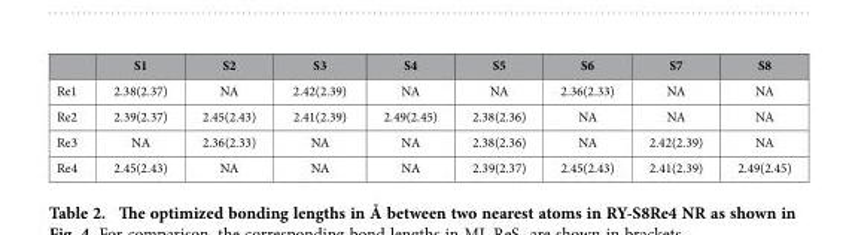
<table><thead><tr><td></td><td>S1</td><td>S2</td><td>S3</td><td>S4</td><td>S5</td><td>S6</td><td>S7</td><td>S8</td></tr></thead><tbody><tr><td>Re1</td><td>2.38(2.37)</td><td>NA</td><td>2.42(2.39)</td><td>NA</td><td>NA</td><td>2.36(2.33)</td><td>NA</td><td>NA</td></tr><tr><td>Re2</td><td>2.39(2.37)</td><td>2.45(2.43)</td><td>2.41(2.39)</td><td>2.49(2.45)</td><td>2.38(2.36)</td><td>NA</td><td>NA</td><td>NA</td></tr><tr><td>Re3</td><td>NA</td><td>2.36(2.33)</td><td>NA</td><td>NA</td><td>2.38(2.36)</td><td>NA</td><td>2.42(2.39)</td><td>NA</td></tr><tr><td>Re4</td><td>2.45(2.43)</td><td>NA</td><td>NA</td><td>NA</td><td>2.39(2.37)</td><td>2.45(2.43)</td><td>2.41(2.39)</td><td>2.49(2.45)</td></tr></tbody></table>